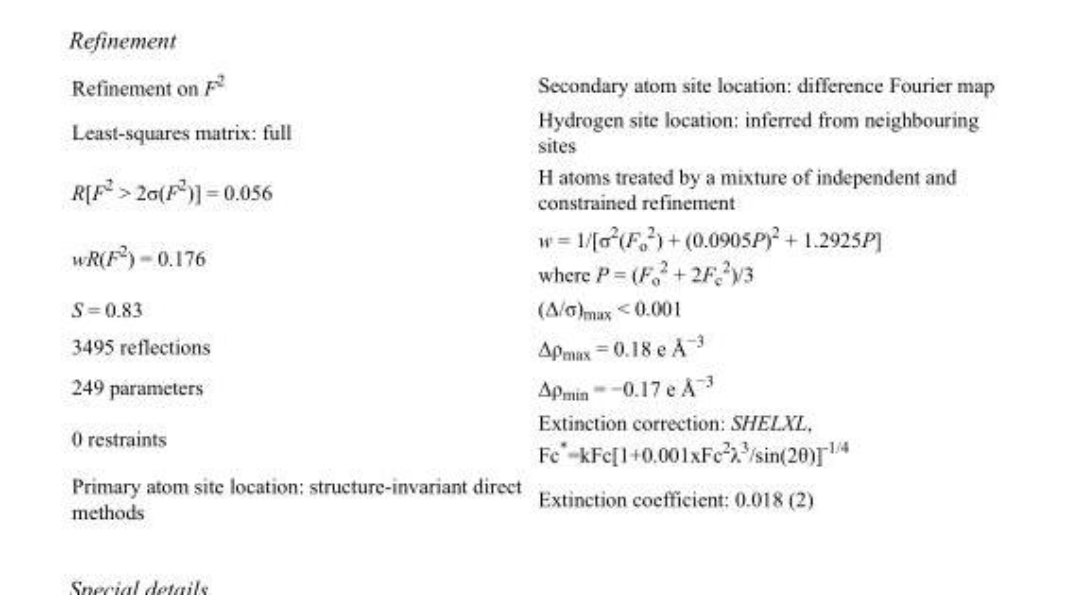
<table><tbody><tr><td>Refinement on F<sup>2</sup></td><td>Secondary atom site location: difference Fourier map</td></tr><tr><td>Least-squares matrix: full</td><td>Hydrogen site location: inferred from neighbouring sites</td></tr><tr><td>R[F<sup>2</sup> &gt; 2σ(F<sup>2</sup>)] = 0.056</td><td>H atoms treated by a mixture of independent and constrained refinement</td></tr><tr><td>wR(F<sup>2</sup>) = 0.176</td><td>w = 1/[σ<sup>2</sup>(F<sub>o</sub> <sup>2</sup>) + (0.0905P)<sup>2</sup> + 1.2925P] where P = (F<sub>o</sub> <sup>2</sup> + 2F<sub>c</sub> <sup>2</sup>)/3</td></tr><tr><td>S = 0.83</td><td>(Δ/σ)<sub>max</sub> &lt; 0.001</td></tr><tr><td>3495 reflections</td><td>Δρ<sub>max</sub> = 0.18 e Å<sup>−3</sup></td></tr><tr><td>249 parameters</td><td>Δρ<sub>min</sub> = −0.17 e Å<sup>−3</sup></td></tr><tr><td>0 restraints</td><td>Extinction correction: SHELXL, Fc*=kFc[1+0.001xFc<sup>2</sup>λ<sup>3</sup>/sin(2θ)]<sup>-1/4</sup></td></tr><tr><td>Primary atom site location: structure-invariant direct methods</td><td>Extinction coefficient: 0.018 (2)</td></tr></tbody></table>